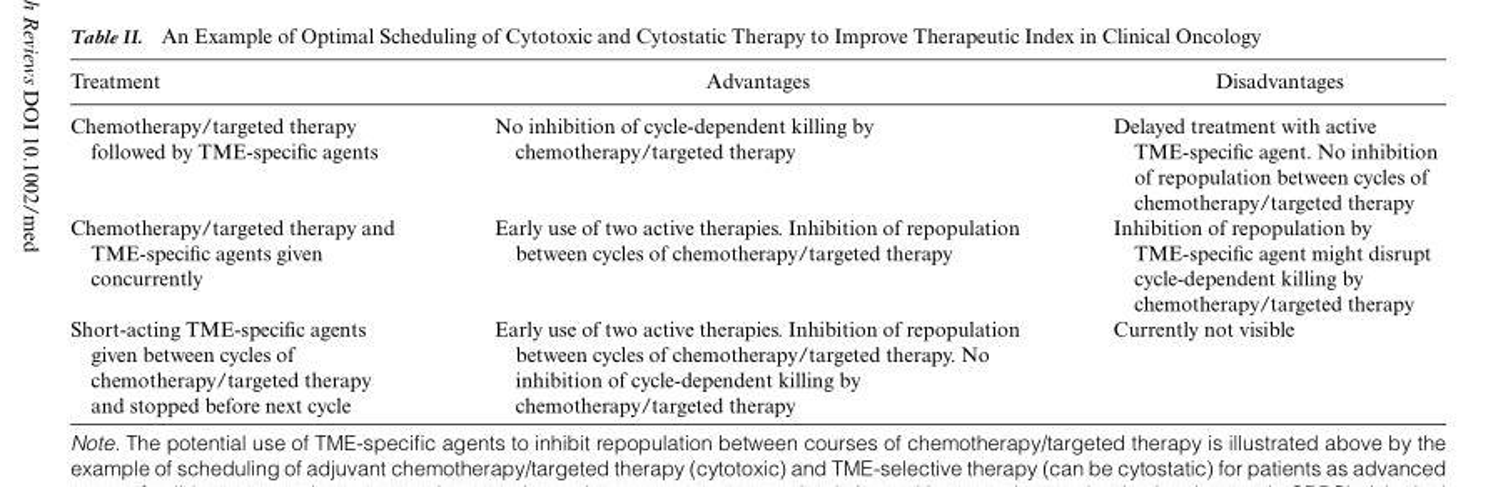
<table><thead><tr><td>Treatment</td><td>Advantages</td><td>Disadvantages</td></tr></thead><tbody><tr><td>Chemotherapy/targeted therapy followed by TME-specific agents</td><td>No inhibition of cycle-dependent killing by chemotherapy/targeted therapy</td><td>Delayed treatment with active TME-specific agent. No inhibition of repopulation between cycles of chemotherapy/targeted therapy</td></tr><tr><td>Chemotherapy/targeted therapy and TME-specific agents given concurrently</td><td>Early use of two active therapies. Inhibition of repopulation between cycles of chemotherapy/targeted therapy</td><td>Inhibition of repopulation by TME-specific agent might disrupt cycle-dependent killing by chemotherapy/targeted therapy</td></tr><tr><td>Short-acting TME-specific agents given between cycles of chemotherapy/targeted therapy and stopped before next cycle</td><td>Early use of two active therapies. Inhibition of repopulation between cycles of chemotherapy/targeted therapy. No inhibition of cycle-dependent killing by chemotherapy/targeted therapy</td><td>Currently not visible</td></tr></tbody></table>